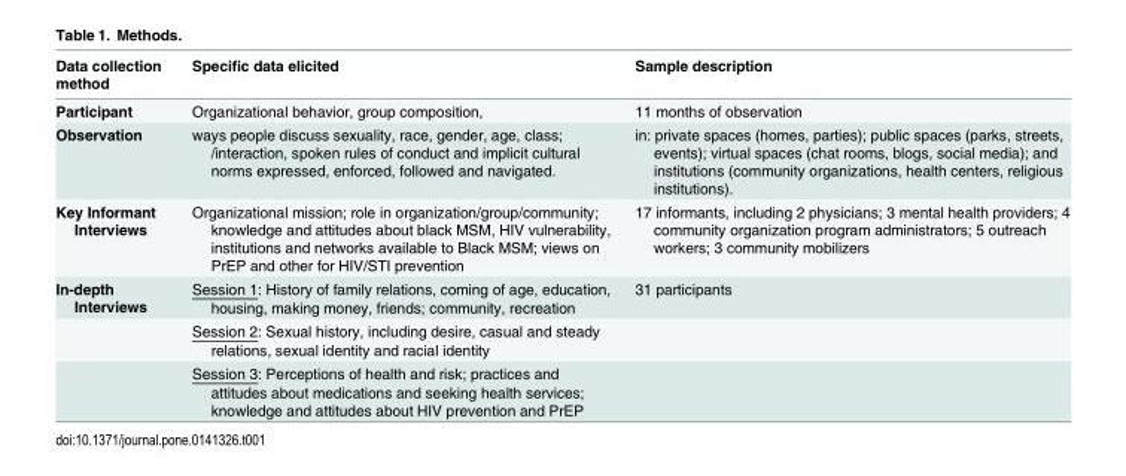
<table><thead><tr><td>Data collection method</td><td>Specific data elicited</td><td>Sample description</td></tr></thead><tbody><tr><td>Participant</td><td>Organizational behavior, group composition,</td><td>11 months of observation</td></tr><tr><td>Observation</td><td>ways people discuss sexuality, race, gender, age, class; /interaction, spoken rules of conduct and implicit cultural norms expressed, enforced, followed and navigated.</td><td>in: private spaces (homes, parties); public spaces (parks, streets, events); virtual spaces (chat rooms, blogs, social media); and institutions (community organizations, health centers, religious institutions).</td></tr><tr><td>Key Informant Interviews</td><td>Organizational mission; role in organization/group/community; knowledge and attitudes about black MSM, HIV vulnerability, institutions and networks available to Black MSM; views on PrEP and other for HIV/STI prevention</td><td>17 informants, including 2 physicians; 3 mental health providers; 4 community organization program administrators; 5 outreach workers; 3 community mobilizers</td></tr><tr><td rowspan="3">In-depth Interviews</td><td>Session 1: History of family relations, coming of age, education, housing, making money, friends; community, recreation</td><td>31 participants</td></tr><tr><td>Session 2: Sexual history, including desire, casual and steady relations, sexual identity and racial identity</td><td></td></tr><tr><td>Session 3: Perceptions of health and risk; practices and attitudes about medications and seeking health services; knowledge and attitudes about HIV prevention and PrEP</td><td></td></tr></tbody></table>